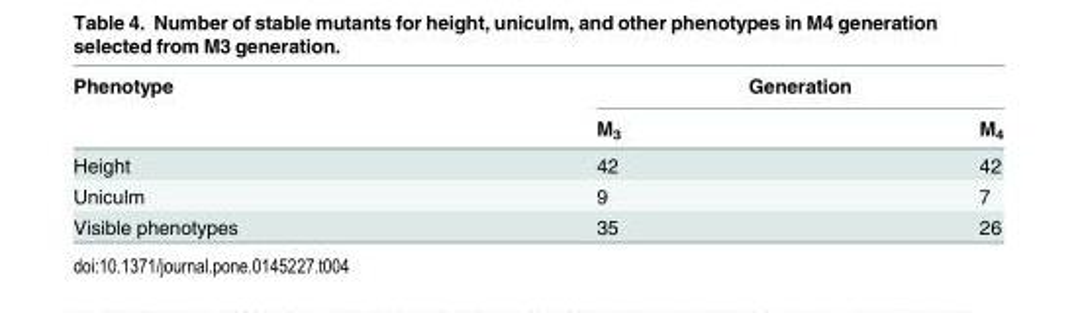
<table><thead><tr><td rowspan="2">Phenotype</td><td colspan="2">Generation</td></tr><tr><td>M<sub>3</sub></td><td>M<sub>4</sub></td></tr></thead><tbody><tr><td>Height</td><td>42</td><td>42</td></tr><tr><td>Uniculm</td><td>9</td><td>7</td></tr><tr><td>Visible phenotypes</td><td>35</td><td>26</td></tr></tbody></table>